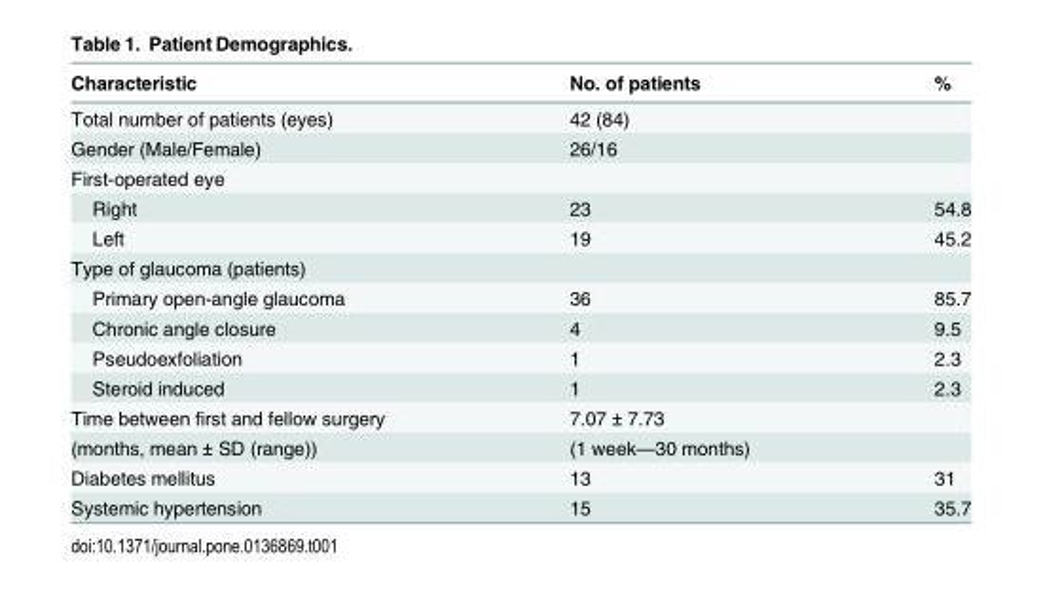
<table><thead><tr><td>Characteristic</td><td>No. of patients</td><td>%</td></tr></thead><tbody><tr><td>Total number of patients (eyes)</td><td>42 (84)</td><td></td></tr><tr><td>Gender (Male/Female)</td><td>26/16</td><td></td></tr><tr><td colspan="3">First-operated eye</td></tr><tr><td>Right</td><td>23</td><td>54.8</td></tr><tr><td>Left</td><td>19</td><td>45.2</td></tr><tr><td colspan="3">Type of glaucoma (patients)</td></tr><tr><td>Primary open-angle glaucoma</td><td>36</td><td>85.7</td></tr><tr><td>Chronic angle closure</td><td>4</td><td>9.5</td></tr><tr><td>Pseudoexfoliation</td><td>1</td><td>2.3</td></tr><tr><td>Steroid induced</td><td>1</td><td>2.3</td></tr><tr><td>Time between first and fellow surgery</td><td>7.07 ± 7.73</td><td></td></tr><tr><td>(months, mean ± SD (range))</td><td>(1 week—30 months)</td><td></td></tr><tr><td>Diabetes mellitus</td><td>13</td><td>31</td></tr><tr><td>Systemic hypertension</td><td>15</td><td>35.7</td></tr></tbody></table>